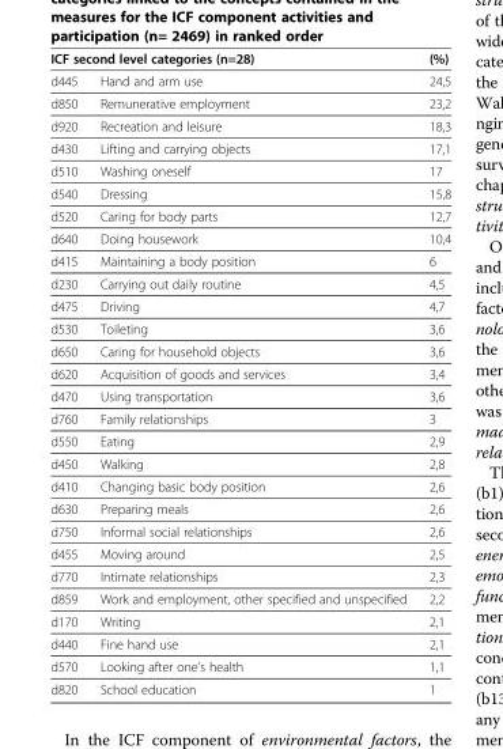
<table><thead><tr><td colspan="2">ICF second level categories (n=28)</td><td rowspan="2">(%) 24,5</td></tr><tr><td>d445</td><td>Hand and arm use</td></tr></thead><tbody><tr><td>d850</td><td>Remunerative employment</td><td>23,2</td></tr><tr><td>d920</td><td>Recreation and leisure</td><td>18,3</td></tr><tr><td>d430</td><td>Lifting and carrying objects</td><td>17,1</td></tr><tr><td>d510</td><td>Washing oneself</td><td>17</td></tr><tr><td>d540</td><td>Dressing</td><td>15,8</td></tr><tr><td>d520</td><td>Caring for body parts</td><td>12,7</td></tr><tr><td>d640</td><td>Doing housework</td><td>10,4</td></tr><tr><td>d415</td><td>Maintaining a body position</td><td>6</td></tr><tr><td>d230</td><td>Carrying out daily routine</td><td>4,5</td></tr><tr><td>d475</td><td>Driving</td><td>4,7</td></tr><tr><td>d530</td><td>Toileting</td><td>3,6</td></tr><tr><td>d650</td><td>Caring for household objects</td><td>3,6</td></tr><tr><td>d620</td><td>Acquisition of goods and services</td><td>3,4</td></tr><tr><td>d470</td><td>Using transportation</td><td>3,6</td></tr><tr><td>d760</td><td>Family relationships</td><td>3</td></tr><tr><td>d550</td><td>Eating</td><td>2,9</td></tr><tr><td>d450</td><td>Walking</td><td>2,8</td></tr><tr><td>d410</td><td>Changing basic body position</td><td>2,6</td></tr><tr><td>d630</td><td>Preparing meals</td><td>2,6</td></tr><tr><td>d750</td><td>Informal social relationships</td><td>2,6</td></tr><tr><td>d455</td><td>Moving around</td><td>2,5</td></tr><tr><td>d770</td><td>Intimate relationships</td><td>2,3</td></tr><tr><td>d859</td><td>Work and employment, other specified and unspecified</td><td>2,2</td></tr><tr><td>d170</td><td>Writing</td><td>2,1</td></tr><tr><td>d440</td><td>Fine hand use</td><td>2,1</td></tr><tr><td>d570</td><td>Looking after one’s health</td><td>1,1</td></tr><tr><td>d820</td><td>School education</td><td>1</td></tr></tbody></table>